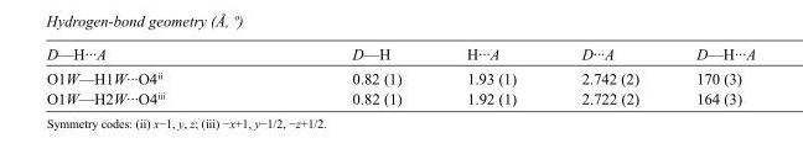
<table><tbody><tr><td>D—H···A</td><td>D—H</td><td>H···A</td><td>D···A</td><td>D—H···A</td></tr><tr><td>O1W—H1W···O4<sup>ii</sup></td><td>0.82 (1)</td><td>1.93 (1)</td><td>2.742 (2)</td><td>170 (3)</td></tr><tr><td>O1W—H2W···O4<sup>iii</sup></td><td>0.82 (1)</td><td>1.92 (1)</td><td>2.722 (2)</td><td>164 (3)</td></tr></tbody></table>